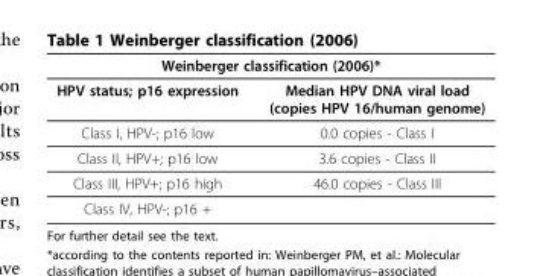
<table><thead><tr><td colspan="2">Weinberger classification (2006)*</td></tr><tr><td>HPV status; p16 expression</td><td>Median HPV DNA viral load (copies HPV 16/human genome)</td></tr></thead><tbody><tr><td>Class I, HPV-; p16 low</td><td>0.0 copies - Class I</td></tr><tr><td>Class II, HPV+; p16 low</td><td>3.6 copies - Class II</td></tr><tr><td>Class III, HPV+; p16 high</td><td>46.0 copies - Class III</td></tr><tr><td>Class IV, HPV-; p16 +</td><td></td></tr></tbody></table>